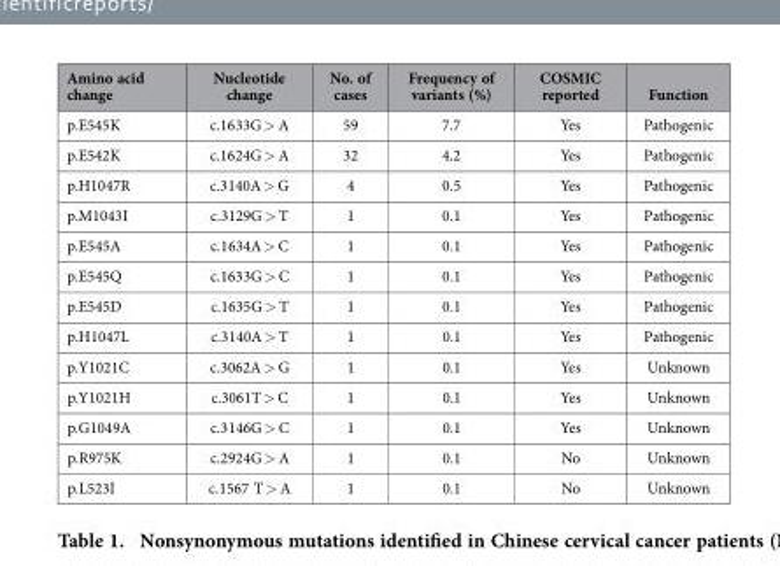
<table><thead><tr><td>Amino acid change</td><td>Nucleotide change</td><td>No. of cases</td><td>Frequency of variants (%)</td><td>COSMIC reported</td><td>Function</td></tr></thead><tbody><tr><td>p.E545K</td><td>c.1633G &gt; A</td><td>59</td><td>7.7</td><td>Yes</td><td>Pathogenic</td></tr><tr><td>p.E542K</td><td>c.1624G &gt; A</td><td>32</td><td>4.2</td><td>Yes</td><td>Pathogenic</td></tr><tr><td>p.H1047R</td><td>c.3140A &gt; G</td><td>4</td><td>0.5</td><td>Yes</td><td>Pathogenic</td></tr><tr><td>p.M1043I</td><td>c.3129G &gt; T</td><td>1</td><td>0.1</td><td>Yes</td><td>Pathogenic</td></tr><tr><td>p.E545A</td><td>c.1634A &gt; C</td><td>1</td><td>0.1</td><td>Yes</td><td>Pathogenic</td></tr><tr><td>p.E545Q</td><td>c.1633G &gt; C</td><td>1</td><td>0.1</td><td>Yes</td><td>Pathogenic</td></tr><tr><td>p.E545D</td><td>c.1635G &gt; T</td><td>1</td><td>0.1</td><td>Yes</td><td>Pathogenic</td></tr><tr><td>p.H1047L</td><td>c.3140A &gt; T</td><td>1</td><td>0.1</td><td>Yes</td><td>Pathogenic</td></tr><tr><td>p.Y1021C</td><td>c.3062A &gt; G</td><td>1</td><td>0.1</td><td>Yes</td><td>Unknown</td></tr><tr><td>p.Y1021H</td><td>c.3061T &gt; C</td><td>1</td><td>0.1</td><td>Yes</td><td>Unknown</td></tr><tr><td>p.G1049A</td><td>c.3146G &gt; C</td><td>1</td><td>0.1</td><td>Yes</td><td>Unknown</td></tr><tr><td>p.R975K</td><td>c.2924G &gt; A</td><td>1</td><td>0.1</td><td>No</td><td>Unknown</td></tr><tr><td>p.L523I</td><td>c.1567 T &gt; A</td><td>1</td><td>0.1</td><td>No</td><td>Unknown</td></tr></tbody></table>